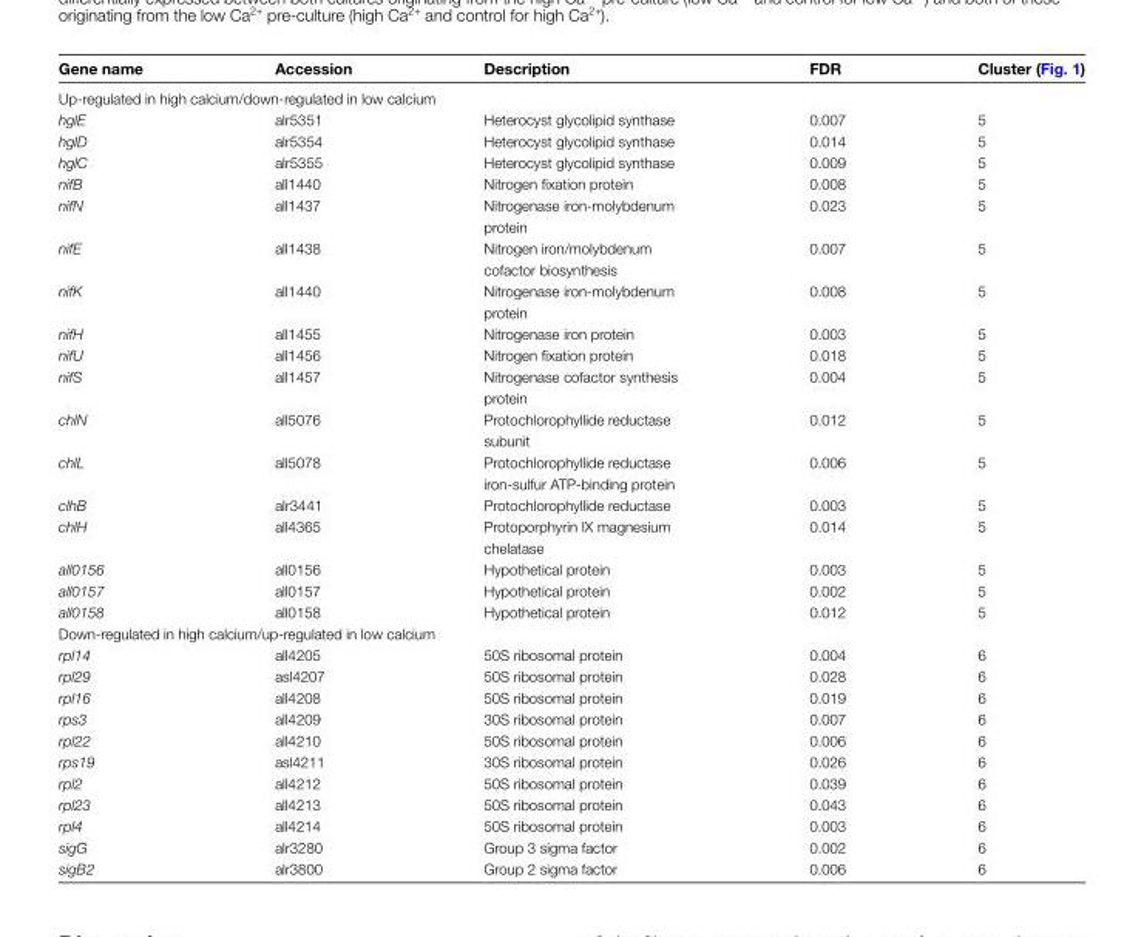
<table><thead><tr><td>Gene name</td><td>Accession</td><td>Description</td><td>FDR</td><td>Cluster (Fig. 1)</td></tr></thead><tbody><tr><td colspan="5">Up-regulated in high calcium/down-regulated in low calcium</td></tr><tr><td>hglE</td><td>alr5351</td><td>Heterocyst glycolipid synthase</td><td>0.007</td><td>5</td></tr><tr><td>hglD</td><td>alr5354</td><td>Heterocyst glycolipid synthase</td><td>0.014</td><td>5</td></tr><tr><td>hglC</td><td>alr5355</td><td>Heterocyst glycolipid synthase</td><td>0.009</td><td>5</td></tr><tr><td>nifB</td><td>all1440</td><td>Nitrogen fixation protein</td><td>0.008</td><td>5</td></tr><tr><td>nifN</td><td>all1437</td><td>Nitrogenase iron-molybdenum protein</td><td>0.023</td><td>5</td></tr><tr><td>nifE</td><td>all1438</td><td>Nitrogen iron/molybdenum cofactor biosynthesis</td><td>0.007</td><td>5</td></tr><tr><td>nifK</td><td>all1440</td><td>Nitrogenase iron-molybdenum protein</td><td>0.008</td><td>5</td></tr><tr><td>nifH</td><td>all1455</td><td>Nitrogenase iron protein</td><td>0.003</td><td>5</td></tr><tr><td>nifU</td><td>all1456</td><td>Nitrogen fixation protein</td><td>0.018</td><td>5</td></tr><tr><td>nifS</td><td>all1457</td><td>Nitrogenase cofactor synthesis protein</td><td>0.004</td><td>5</td></tr><tr><td>chlN</td><td>all5076</td><td>Protochlorophyllide reductase subunit</td><td>0.012</td><td>5</td></tr><tr><td>chlL</td><td>all5078</td><td>Protochlorophyllide reductase iron-sulfur ATP-binding protein</td><td>0.006</td><td>5</td></tr><tr><td>clhB</td><td>alr3441</td><td>Protochlorophyllide reductase</td><td>0.003</td><td>5</td></tr><tr><td>chlH</td><td>all4365</td><td>Protoporphyrin IX magnesium chelatase</td><td>0.014</td><td>5</td></tr><tr><td>all0156</td><td>all0156</td><td>Hypothetical protein</td><td>0.003</td><td>5</td></tr><tr><td>all0157</td><td>all0157</td><td>Hypothetical protein</td><td>0.002</td><td>5</td></tr><tr><td>all0158</td><td>all0158</td><td>Hypothetical protein</td><td>0.012</td><td>5</td></tr><tr><td colspan="5">Down-regulated in high calcium/up-regulated in low calcium</td></tr><tr><td>rpl14</td><td>all4205</td><td>50S ribosomal protein</td><td>0.004</td><td>6</td></tr><tr><td>rpl29</td><td>asl4207</td><td>50S ribosomal protein</td><td>0.028</td><td>6</td></tr><tr><td>rpl16</td><td>all4208</td><td>50S ribosomal protein</td><td>0.019</td><td>6</td></tr><tr><td>rps3</td><td>all4209</td><td>30S ribosomal protein</td><td>0.007</td><td>6</td></tr><tr><td>rpl22</td><td>all4210</td><td>50S ribosomal protein</td><td>0.006</td><td>6</td></tr><tr><td>rps19</td><td>asl4211</td><td>30S ribosomal protein</td><td>0.026</td><td>6</td></tr><tr><td>rpl2</td><td>all4212</td><td>50S ribosomal protein</td><td>0.039</td><td>6</td></tr><tr><td>rpl23</td><td>all4213</td><td>50S ribosomal protein</td><td>0.043</td><td>6</td></tr><tr><td>rpl4</td><td>all4214</td><td>50S ribosomal protein</td><td>0.003</td><td>6</td></tr><tr><td>sigG</td><td>alr3280</td><td>Group 3 sigma factor</td><td>0.002</td><td>6</td></tr><tr><td>sigB2</td><td>alr3800</td><td>Group 2 sigma factor</td><td>0.006</td><td>6</td></tr></tbody></table>